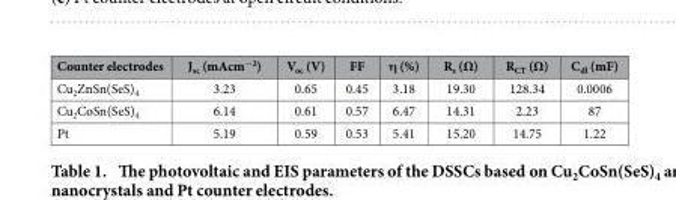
<table><thead><tr><td>Counter electrodes</td><td>J<sub>sc</sub> (mAcm<sup>−2</sup>)</td><td>V<sub>oc</sub> (V)</td><td>FF</td><td>η (%)</td><td>R<sub>s</sub> (Ω)</td><td>R<sub>CT</sub> (Ω)</td><td>C<sub>dl</sub> (mF)</td></tr></thead><tbody><tr><td>Cu<sub>2</sub>ZnSn(SeS)<sub>4</sub></td><td>3.23</td><td>0.65</td><td>0.45</td><td>3.18</td><td>19.30</td><td>128.34</td><td>0.0006</td></tr><tr><td>Cu<sub>2</sub>CoSn(SeS)<sub>4</sub></td><td>6.14</td><td>0.61</td><td>0.57</td><td>6.47</td><td>14.31</td><td>2.23</td><td>87</td></tr><tr><td>Pt</td><td>5.19</td><td>0.59</td><td>0.53</td><td>5.41</td><td>15.20</td><td>14.75</td><td>1.22</td></tr></tbody></table>